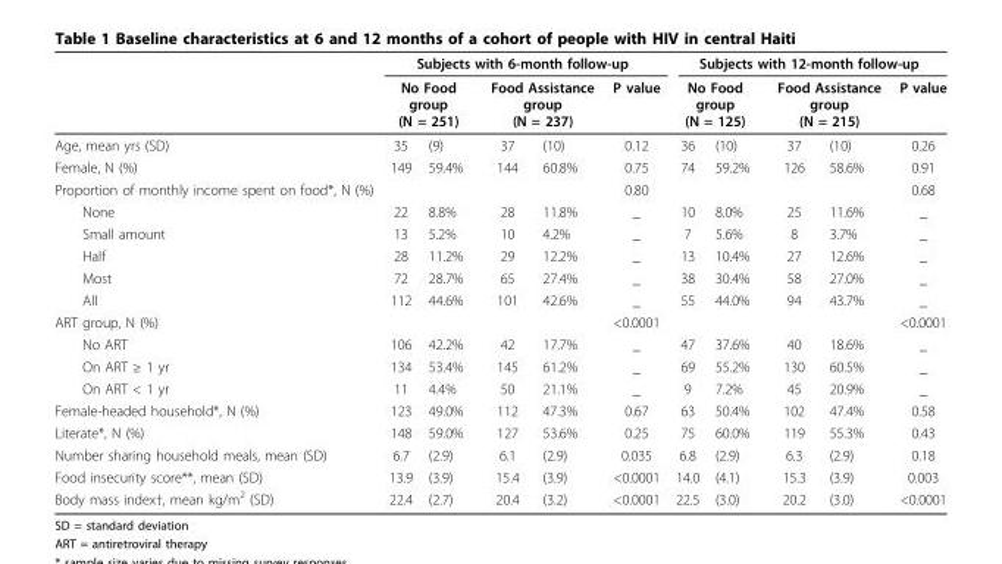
<table><thead><tr><td rowspan="3">Age, mean yrs (SD)</td><td colspan="5">Subjects with 6-month follow-up</td><td colspan="5">Subjects with 12-month follow-up</td></tr><tr><td colspan="2">No Food group (N = 251)</td><td colspan="2">Food Assistance group (N = 237)</td><td rowspan="2">P value 0.12</td><td colspan="2">No Food group (N = 125)</td><td colspan="2">Food Assistance group (N = 215)</td><td rowspan="2">P value 0.26</td></tr><tr><td>35</td><td>(9)</td><td>37</td><td>(10)</td><td>36</td><td>(10)</td><td>37</td><td>(10)</td></tr></thead><tbody><tr><td>Female, N (%)</td><td>149</td><td>59.4%</td><td>144</td><td>60.8%</td><td>0.75</td><td>74</td><td>59.2%</td><td>126</td><td>58.6%</td><td>0.91</td></tr><tr><td>Proportion of monthly income spent on food*, N (%)</td><td></td><td></td><td></td><td></td><td>0.80</td><td></td><td></td><td></td><td></td><td>0.68</td></tr><tr><td>None</td><td>22</td><td>8.8%</td><td>28</td><td>11.8%</td><td>_</td><td>10</td><td>8.0%</td><td>25</td><td>11.6%</td><td>_</td></tr><tr><td>Small amount</td><td>13</td><td>5.2%</td><td>10</td><td>4.2%</td><td>_</td><td>7</td><td>5.6%</td><td>8</td><td>3.7%</td><td>_</td></tr><tr><td>Half</td><td>28</td><td>11.2%</td><td>29</td><td>12.2%</td><td>_</td><td>13</td><td>10.4%</td><td>27</td><td>12.6%</td><td>_</td></tr><tr><td>Most</td><td>72</td><td>28.7%</td><td>65</td><td>27.4%</td><td>_</td><td>38</td><td>30.4%</td><td>58</td><td>27.0%</td><td>_</td></tr><tr><td>All</td><td>112</td><td>44.6%</td><td>101</td><td>42.6%</td><td>_</td><td>55</td><td>44.0%</td><td>94</td><td>43.7%</td><td>_</td></tr><tr><td>ART group, N (%)</td><td></td><td></td><td></td><td></td><td>&lt;0.0001</td><td></td><td></td><td></td><td></td><td>&lt;0.0001</td></tr><tr><td>No ART</td><td>106</td><td>42.2%</td><td>42</td><td>17.7%</td><td>_</td><td>47</td><td>37.6%</td><td>40</td><td>18.6%</td><td>_</td></tr><tr><td>On ART ≥ 1 yr</td><td>134</td><td>53.4%</td><td>145</td><td>61.2%</td><td>_</td><td>69</td><td>55.2%</td><td>130</td><td>60.5%</td><td>_</td></tr><tr><td>On ART &lt; 1 yr</td><td>11</td><td>4.4%</td><td>50</td><td>21.1%</td><td>_</td><td>9</td><td>7.2%</td><td>45</td><td>20.9%</td><td>_</td></tr><tr><td>Female-headed household*, N (%)</td><td>123</td><td>49.0%</td><td>112</td><td>47.3%</td><td>0.67</td><td>63</td><td>50.4%</td><td>102</td><td>47.4%</td><td>0.58</td></tr><tr><td>Literate*, N (%)</td><td>148</td><td>59.0%</td><td>127</td><td>53.6%</td><td>0.25</td><td>75</td><td>60.0%</td><td>119</td><td>55.3%</td><td>0.43</td></tr><tr><td>Number sharing household meals, mean (SD)</td><td>6.7</td><td>(2.9)</td><td>6.1</td><td>(2.9)</td><td>0.035</td><td>6.8</td><td>(2.9)</td><td>6.3</td><td>(2.9)</td><td>0.18</td></tr><tr><td>Food insecurity score**, mean (SD)</td><td>13.9</td><td>(3.9)</td><td>15.4</td><td>(3.9)</td><td>&lt;0.0001</td><td>14.0</td><td>(4.1)</td><td>15.3</td><td>(3.9)</td><td>0.003</td></tr><tr><td>Body mass index†, mean kg/m<sup>2</sup> (SD)</td><td>22.4</td><td>(2.7)</td><td>20.4</td><td>(3.2)</td><td>&lt;0.0001</td><td>22.5</td><td>(3.0)</td><td>20.2</td><td>(3.0)</td><td>&lt;0.0001</td></tr></tbody></table>